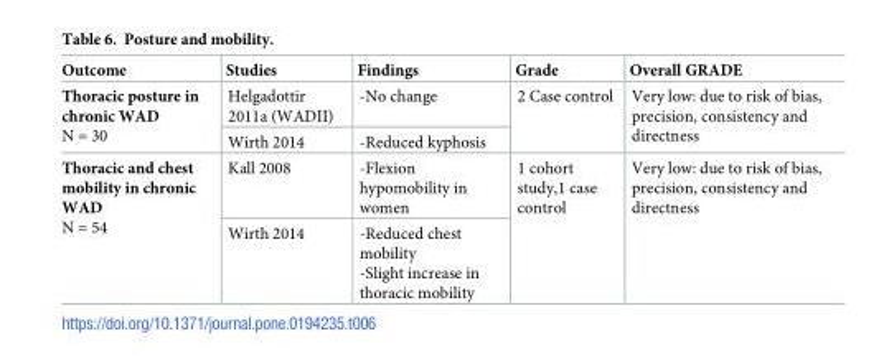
<table><thead><tr><td>Outcome</td><td>Studies</td><td>Findings</td><td>Grade</td><td>Overall GRADE</td></tr></thead><tbody><tr><td rowspan="2">Thoracic posture in chronic WAD N = 30</td><td>Helgadottir 2011a (WADII)</td><td>-No change</td><td rowspan="2">2 Case control</td><td rowspan="2">Very low: due to risk of bias, precision, consistency and directness</td></tr><tr><td>Wirth 2014</td><td>-Reduced kyphosis</td></tr><tr><td rowspan="2">Thoracic and chest mobility in chronic WAD N = 54</td><td>Kall 2008</td><td>-Flexion hypomobility in women</td><td rowspan="2">1 cohort study,1 case control</td><td rowspan="2">Very low: due to risk of bias, precision, consistency and directness</td></tr><tr><td>Wirth 2014</td><td>-Reduced chest mobility -Slight increase in thoracic mobility</td></tr></tbody></table>